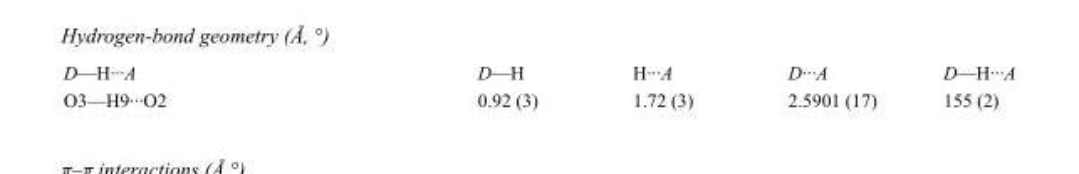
<table><tbody><tr><td>D—H···A</td><td>D—H</td><td>H···A</td><td>D···A</td><td>D—H···A</td></tr><tr><td>O3—H9···O2</td><td>0.92 (3)</td><td>1.72 (3)</td><td>2.5901 (17)</td><td>155 (2)</td></tr></tbody></table>